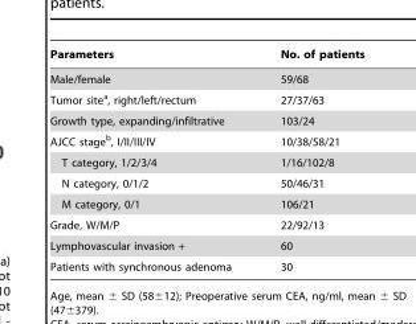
<table><thead><tr><td>Parameters</td><td>No. of patients</td></tr></thead><tbody><tr><td>Male/female</td><td>59/68</td></tr><tr><td>Tumor site<sup>a</sup>, right/left/rectum</td><td>27/37/63</td></tr><tr><td>Growth type, expanding/infiltrative</td><td>103/24</td></tr><tr><td>AJCC stage<sup>b</sup>, I/II/III/IV</td><td>10/38/58/21</td></tr><tr><td>T category, 1/2/3/4</td><td>1/16/102/8</td></tr><tr><td>N category, 0/1/2</td><td>50/46/31</td></tr><tr><td>M category, 0/1</td><td>106/21</td></tr><tr><td>Grade, W/M/P</td><td>22/92/13</td></tr><tr><td>Lymphovascular invasion +</td><td>60</td></tr><tr><td>Patients with synchronous adenoma</td><td>30</td></tr></tbody></table>